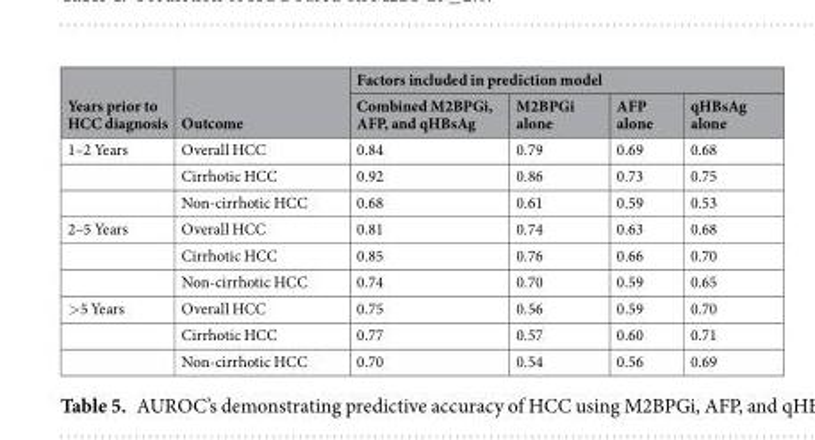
<table><thead><tr><td rowspan="2">Years prior to HCC diagnosis</td><td rowspan="2">Outcome</td><td colspan="4">Factors included in prediction model</td></tr><tr><td>Combined M2BPGi, AFP, and qHBsAg</td><td>M2BPGi alone</td><td>AFP alone</td><td>qHBsAg alone</td></tr></thead><tbody><tr><td rowspan="3">1–2 Years</td><td>Overall HCC</td><td>0.84</td><td>0.79</td><td>0.69</td><td>0.68</td></tr><tr><td>Cirrhotic HCC</td><td>0.92</td><td>0.86</td><td>0.73</td><td>0.75</td></tr><tr><td>Non-cirrhotic HCC</td><td>0.68</td><td>0.61</td><td>0.59</td><td>0.53</td></tr><tr><td rowspan="3">2–5 Years</td><td>Overall HCC</td><td>0.81</td><td>0.74</td><td>0.63</td><td>0.68</td></tr><tr><td>Cirrhotic HCC</td><td>0.85</td><td>0.76</td><td>0.66</td><td>0.70</td></tr><tr><td>Non-cirrhotic HCC</td><td>0.74</td><td>0.70</td><td>0.59</td><td>0.65</td></tr><tr><td rowspan="3">&gt;5 Years</td><td>Overall HCC</td><td>0.75</td><td>0.56</td><td>0.59</td><td>0.70</td></tr><tr><td>Cirrhotic HCC</td><td>0.77</td><td>0.57</td><td>0.60</td><td>0.71</td></tr><tr><td>Non-cirrhotic HCC</td><td>0.70</td><td>0.54</td><td>0.56</td><td>0.69</td></tr></tbody></table>